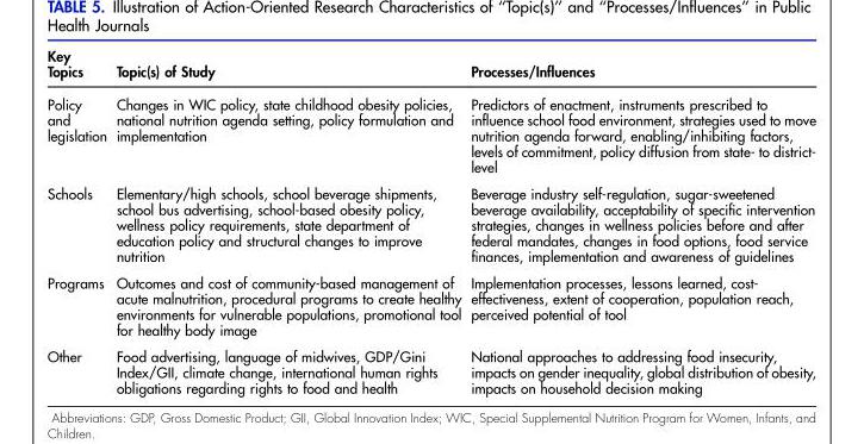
<table><thead><tr><td>Key Topics</td><td>Topic(s) of Study</td><td>Processes/Influences</td></tr></thead><tbody><tr><td>Policy and legislation</td><td>Changes in WIC policy, state childhood obesity policies, national nutrition agenda setting, policy formulation and implementation</td><td>Predictors of enactment, instruments prescribed to influence school food environment, strategies used to move nutrition agenda forward, enabling/inhibiting factors, levels of commitment, policy diffusion from state- to district- level</td></tr><tr><td>Schools</td><td>Elementary/high schools, school beverage shipments, school bus advertising, school-based obesity policy, wellness policy requirements, state department of education policy and structural changes to improve nutrition</td><td>Beverage industry self-regulation, sugar-sweetened beverage availability, acceptability of specific intervention strategies, changes in wellness policies before and after federal mandates, changes in food options, food service finances, implementation and awareness of guidelines</td></tr><tr><td>Programs</td><td>Outcomes and cost of community-based management of acute malnutrition, procedural programs to create healthy environments for vulnerable populations, promotional tool for healthy body image</td><td>Implementation processes, lessons learned, cost- effectiveness, extent of cooperation, population reach, perceived potential of tool</td></tr><tr><td>Other</td><td>Food advertising, language of midwives, GDP/Gini Index/GII, climate change, international human rights obligations regarding rights to food and health</td><td>National approaches to addressing food insecurity, impacts on gender inequality, global distribution of obesity, impacts on household decision making</td></tr></tbody></table>